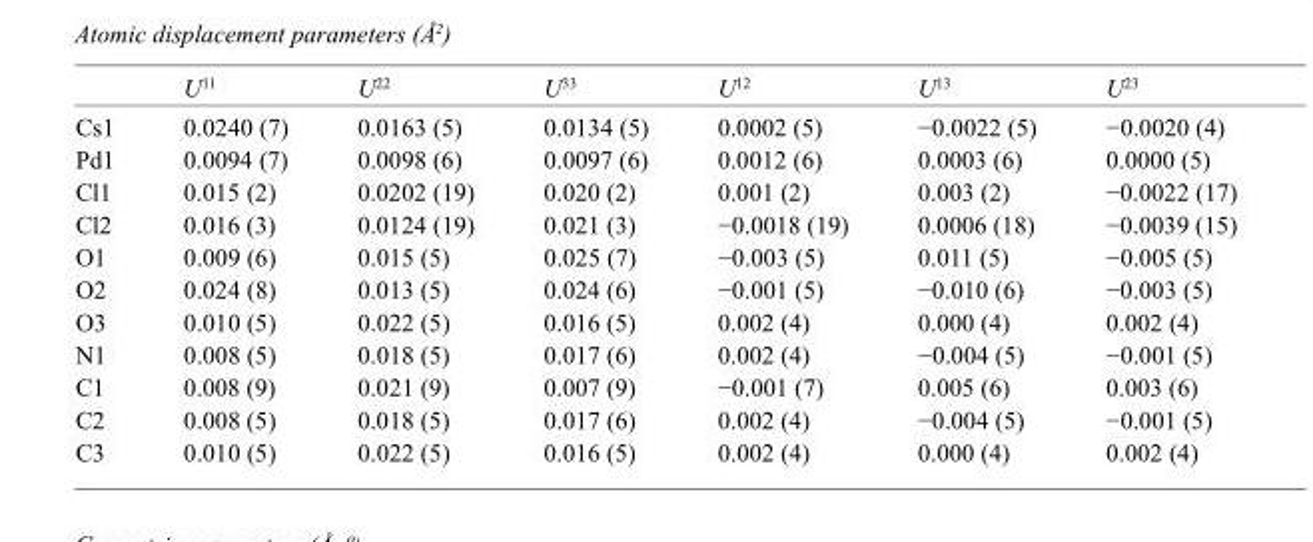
<table><thead><tr><td></td><td>U<sup>11</sup></td><td>U<sup>22</sup></td><td>U<sup>33</sup></td><td>U<sup>12</sup></td><td>U<sup>13</sup></td><td>U<sup>23</sup></td></tr></thead><tbody><tr><td>Cs1</td><td>0.0240 (7)</td><td>0.0163 (5)</td><td>0.0134 (5)</td><td>0.0002 (5)</td><td>−0.0022 (5)</td><td>−0.0020 (4)</td></tr><tr><td>Pd1</td><td>0.0094 (7)</td><td>0.0098 (6)</td><td>0.0097 (6)</td><td>0.0012 (6)</td><td>0.0003 (6)</td><td>0.0000 (5)</td></tr><tr><td>Cl1</td><td>0.015 (2)</td><td>0.0202 (19)</td><td>0.020 (2)</td><td>0.001 (2)</td><td>0.003 (2)</td><td>−0.0022 (17)</td></tr><tr><td>Cl2</td><td>0.016 (3)</td><td>0.0124 (19)</td><td>0.021 (3)</td><td>−0.0018 (19)</td><td>0.0006 (18)</td><td>−0.0039 (15)</td></tr><tr><td>O1</td><td>0.009 (6)</td><td>0.015 (5)</td><td>0.025 (7)</td><td>−0.003 (5)</td><td>0.011 (5)</td><td>−0.005 (5)</td></tr><tr><td>O2</td><td>0.024 (8)</td><td>0.013 (5)</td><td>0.024 (6)</td><td>−0.001 (5)</td><td>−0.010 (6)</td><td>−0.003 (5)</td></tr><tr><td>O3</td><td>0.010 (5)</td><td>0.022 (5)</td><td>0.016 (5)</td><td>0.002 (4)</td><td>0.000 (4)</td><td>0.002 (4)</td></tr><tr><td>N1</td><td>0.008 (5)</td><td>0.018 (5)</td><td>0.017 (6)</td><td>0.002 (4)</td><td>−0.004 (5)</td><td>−0.001 (5)</td></tr><tr><td>C1</td><td>0.008 (9)</td><td>0.021 (9)</td><td>0.007 (9)</td><td>−0.001 (7)</td><td>0.005 (6)</td><td>0.003 (6)</td></tr><tr><td>C2</td><td>0.008 (5)</td><td>0.018 (5)</td><td>0.017 (6)</td><td>0.002 (4)</td><td>−0.004 (5)</td><td>−0.001 (5)</td></tr><tr><td>C3</td><td>0.010 (5)</td><td>0.022 (5)</td><td>0.016 (5)</td><td>0.002 (4)</td><td>0.000 (4)</td><td>0.002 (4)</td></tr></tbody></table>